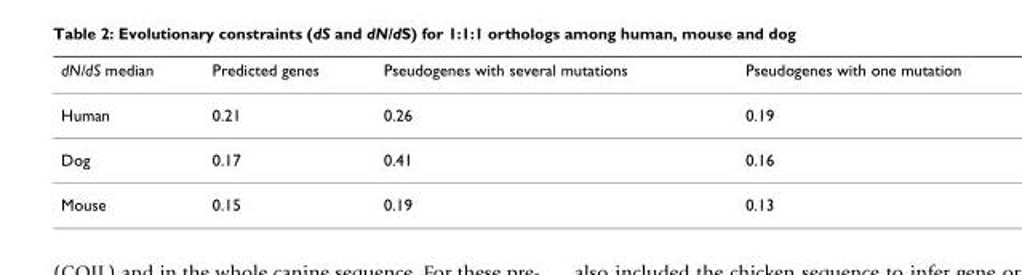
<table><thead><tr><td>dN/dS median</td><td>Predicted genes</td><td>Pseudogenes with several mutations</td><td>Pseudogenes with one mutation</td></tr></thead><tbody><tr><td>Human</td><td>0.21</td><td>0.26</td><td>0.19</td></tr><tr><td>Dog</td><td>0.17</td><td>0.41</td><td>0.16</td></tr><tr><td>Mouse</td><td>0.15</td><td>0.19</td><td>0.13</td></tr></tbody></table>